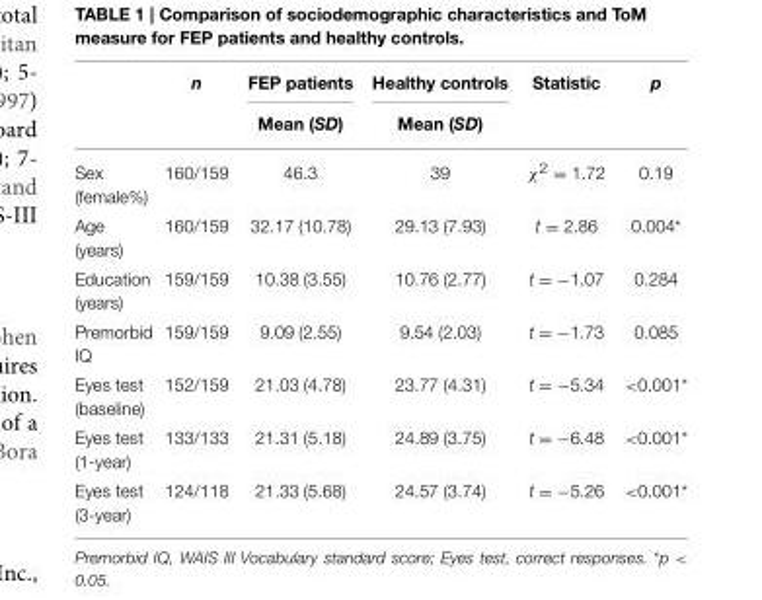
<table><thead><tr><td rowspan="2"></td><td rowspan="2">n</td><td rowspan="2">FEP patients Mean (SD)</td><td rowspan="2">Healthy controls Mean (SD)</td><td rowspan="2">Statistic</td><td rowspan="2">p</td></tr><tr></tr></thead><tbody><tr><td>Sex (female%)</td><td>160/159</td><td>46.3</td><td>39</td><td>χ<sup>2</sup> = 1.72</td><td>0.19</td></tr><tr><td>Age (years)</td><td>160/159</td><td>32.17 (10.78)</td><td>29.13 (7.93)</td><td>t = 2.86</td><td>0.004*</td></tr><tr><td>Education (years)</td><td>159/159</td><td>10.38 (3.55)</td><td>10.76 (2.77)</td><td>t = −1.07</td><td>0.284</td></tr><tr><td>Premorbid IQ</td><td>159/159</td><td>9.09 (2.55)</td><td>9.54 (2.03)</td><td>t = −1.73</td><td>0.085</td></tr><tr><td>Eyes test (baseline)</td><td>152/159</td><td>21.03 (4.78)</td><td>23.77 (4.31)</td><td>t = −5.34</td><td>&lt;0.001*</td></tr><tr><td>Eyes test (1-year)</td><td>133/133</td><td>21.31 (5.18)</td><td>24.89 (3.75)</td><td>t = −6.48</td><td>&lt;0.001*</td></tr><tr><td>Eyes test (3-year)</td><td>124/118</td><td>21.33 (5.68)</td><td>24.57 (3.74)</td><td>t = −5.26</td><td>&lt;0.001*</td></tr></tbody></table>